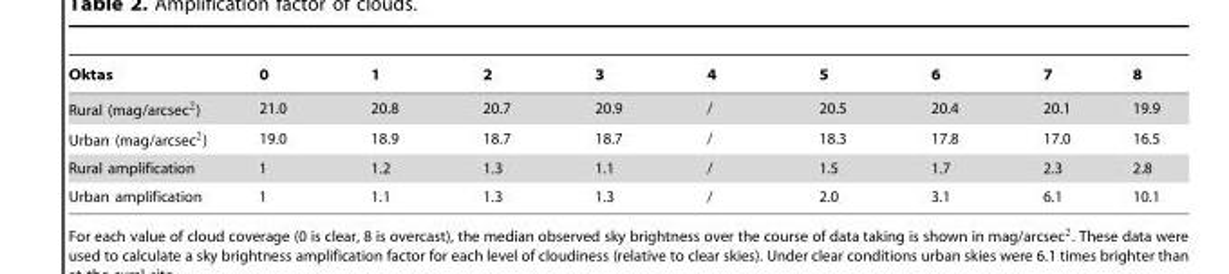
<table><thead><tr><td>Oktas</td><td>0</td><td>1</td><td>2</td><td>3</td><td>4</td><td>5</td><td>6</td><td>7</td><td>8</td></tr></thead><tbody><tr><td>Rural (mag/arcsec<sup>2</sup>)</td><td>21.0</td><td>20.8</td><td>20.7</td><td>20.9</td><td>/</td><td>20.5</td><td>20.4</td><td>20.1</td><td>19.9</td></tr><tr><td>Urban (mag/arcsec<sup>2</sup>)</td><td>19.0</td><td>18.9</td><td>18.7</td><td>18.7</td><td>/</td><td>18.3</td><td>17.8</td><td>17.0</td><td>16.5</td></tr><tr><td>Rural amplification</td><td>1</td><td>1.2</td><td>1.3</td><td>1.1</td><td>/</td><td>1.5</td><td>1.7</td><td>2.3</td><td>2.8</td></tr><tr><td>Urban amplification</td><td>1</td><td>1.1</td><td>1.3</td><td>1.3</td><td>/</td><td>2.0</td><td>3.1</td><td>6.1</td><td>10.1</td></tr></tbody></table>